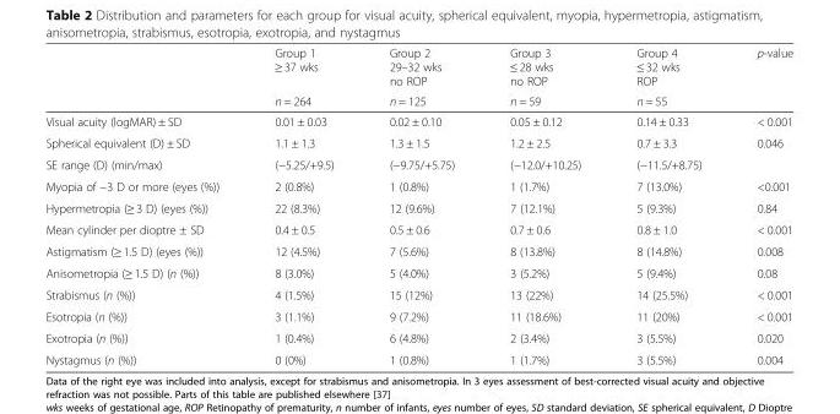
<table><thead><tr><td rowspan="2"></td><td rowspan="2">Group 1 ≥ 37 wks n = 264</td><td rowspan="2">Group 2 29–32 wks no ROP n = 125</td><td rowspan="2">Group 3 ≤ 28 wks no ROP n = 59</td><td rowspan="2">Group 4 ≤ 32 wks ROP n = 55</td><td rowspan="2">p-value</td></tr><tr></tr></thead><tbody><tr><td>Visual acuity (logMAR) ± SD</td><td>0.01 ± 0.03</td><td>0.02 ± 0.10</td><td>0.05 ± 0.12</td><td>0.14 ± 0.33</td><td>&lt; 0.001</td></tr><tr><td>Spherical equivalent (D) ± SD</td><td>1.1 ± 1.3</td><td>1.3 ± 1.5</td><td>1.2 ± 2.5</td><td>0.7 ± 3.3</td><td>0.046</td></tr><tr><td>SE range (D) (min/max)</td><td>(−5.25/+9.5)</td><td>(−9.75/+5.75)</td><td>(−12.0/+10.25)</td><td>(−11.5/+8.75)</td><td></td></tr><tr><td>Myopia of −3 D or more (eyes (%))</td><td>2 (0.8%)</td><td>1 (0.8%)</td><td>1 (1.7%)</td><td>7 (13.0%)</td><td>&lt;0.001</td></tr><tr><td>Hypermetropia (≥ 3 D) (eyes (%))</td><td>22 (8.3%)</td><td>12 (9.6%)</td><td>7 (12.1%)</td><td>5 (9.3%)</td><td>0.84</td></tr><tr><td>Mean cylinder per dioptre ± SD</td><td>0.4 ± 0.5</td><td>0.5 ± 0.6</td><td>0.7 ± 0.6</td><td>0.8 ± 1.0</td><td>&lt; 0.001</td></tr><tr><td>Astigmatism (≥ 1.5 D) (eyes (%))</td><td>12 (4.5%)</td><td>7 (5.6%)</td><td>8 (13.8%)</td><td>8 (14.8%)</td><td>0.008</td></tr><tr><td>Anisometropia (≥ 1.5 D) (n (%))</td><td>8 (3.0%)</td><td>5 (4.0%)</td><td>3 (5.2%)</td><td>5 (9.4%)</td><td>0.08</td></tr><tr><td>Strabismus (n (%))</td><td>4 (1.5%)</td><td>15 (12%)</td><td>13 (22%)</td><td>14 (25.5%)</td><td>&lt; 0.001</td></tr><tr><td>Esotropia (n (%))</td><td>3 (1.1%)</td><td>9 (7.2%)</td><td>11 (18.6%)</td><td>11 (20%)</td><td>&lt; 0.001</td></tr><tr><td>Exotropia (n (%))</td><td>1 (0.4%)</td><td>6 (4.8%)</td><td>2 (3.4%)</td><td>3 (5.5%)</td><td>0.020</td></tr><tr><td>Nystagmus (n (%))</td><td>0 (0%)</td><td>1 (0.8%)</td><td>1 (1.7%)</td><td>3 (5.5%)</td><td>0.004</td></tr></tbody></table>